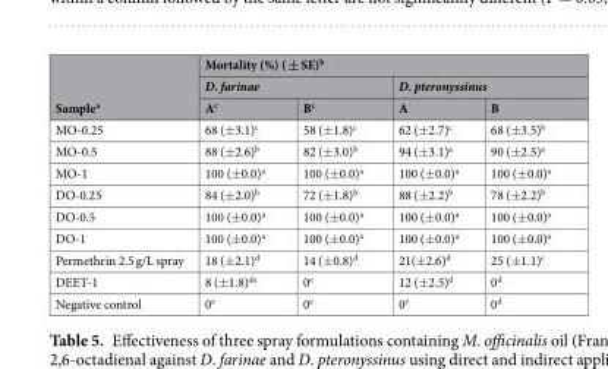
<table><thead><tr><td rowspan="3">Sample<sup>a</sup></td><td colspan="4">Mortality (%) ( ± SE)<sup>b</sup></td></tr><tr><td colspan="2">D. farinae</td><td colspan="2">D. pteronyssinus</td></tr><tr><td>A<sup>c</sup></td><td>B<sup>c</sup></td><td>A</td><td>B</td></tr></thead><tbody><tr><td>MO-0.25</td><td>68 (±3.1)<sup>c</sup></td><td>58 (±1.8)<sup>c</sup></td><td>62 (±2.7)<sup>c</sup></td><td>68 (±3.5)<sup>b</sup></td></tr><tr><td>MO-0.5</td><td>88 (±2.6)<sup>b</sup></td><td>82 (±3.0)<sup>b</sup></td><td>94 (±3.1)<sup>a</sup></td><td>90 (±2.5)<sup>a</sup></td></tr><tr><td>MO-1</td><td>100 (±0.0)<sup>a</sup></td><td>100 (±0.0)<sup>a</sup></td><td>100 (±0.0)<sup>a</sup></td><td>100 (±0.0)<sup>a</sup></td></tr><tr><td>DO-0.25</td><td>84 (±2.0)<sup>b</sup></td><td>72 (±1.8)<sup>b</sup></td><td>88 (±2.2)<sup>b</sup></td><td>78 (±2.2)<sup>b</sup></td></tr><tr><td>DO-0.5</td><td>100 (±0.0)<sup>a</sup></td><td>100 (±0.0)<sup>a</sup></td><td>100 (±0.0)<sup>a</sup></td><td>100 (±0.0)<sup>a</sup></td></tr><tr><td>DO-1</td><td>100 (±0.0)<sup>a</sup></td><td>100 (±0.0)<sup>a</sup></td><td>100 (±0.0)<sup>a</sup></td><td>100 (±0.0)<sup>a</sup></td></tr><tr><td>Permethrin 2.5 g/L spray</td><td>18 (±2.1)<sup>d</sup></td><td>14 (±0.8)<sup>d</sup></td><td>21(±2.6)<sup>d</sup></td><td>25 (±1.1)<sup>c</sup></td></tr><tr><td>DEET-1</td><td>8 (±1.8)<sup>de</sup></td><td>0<sup>e</sup></td><td>12 (±2.5)<sup>d</sup></td><td>0<sup>d</sup></td></tr><tr><td>Negative control</td><td>0<sup>e</sup></td><td>0<sup>e</sup></td><td>0<sup>e</sup></td><td>0<sup>d</sup></td></tr></tbody></table>